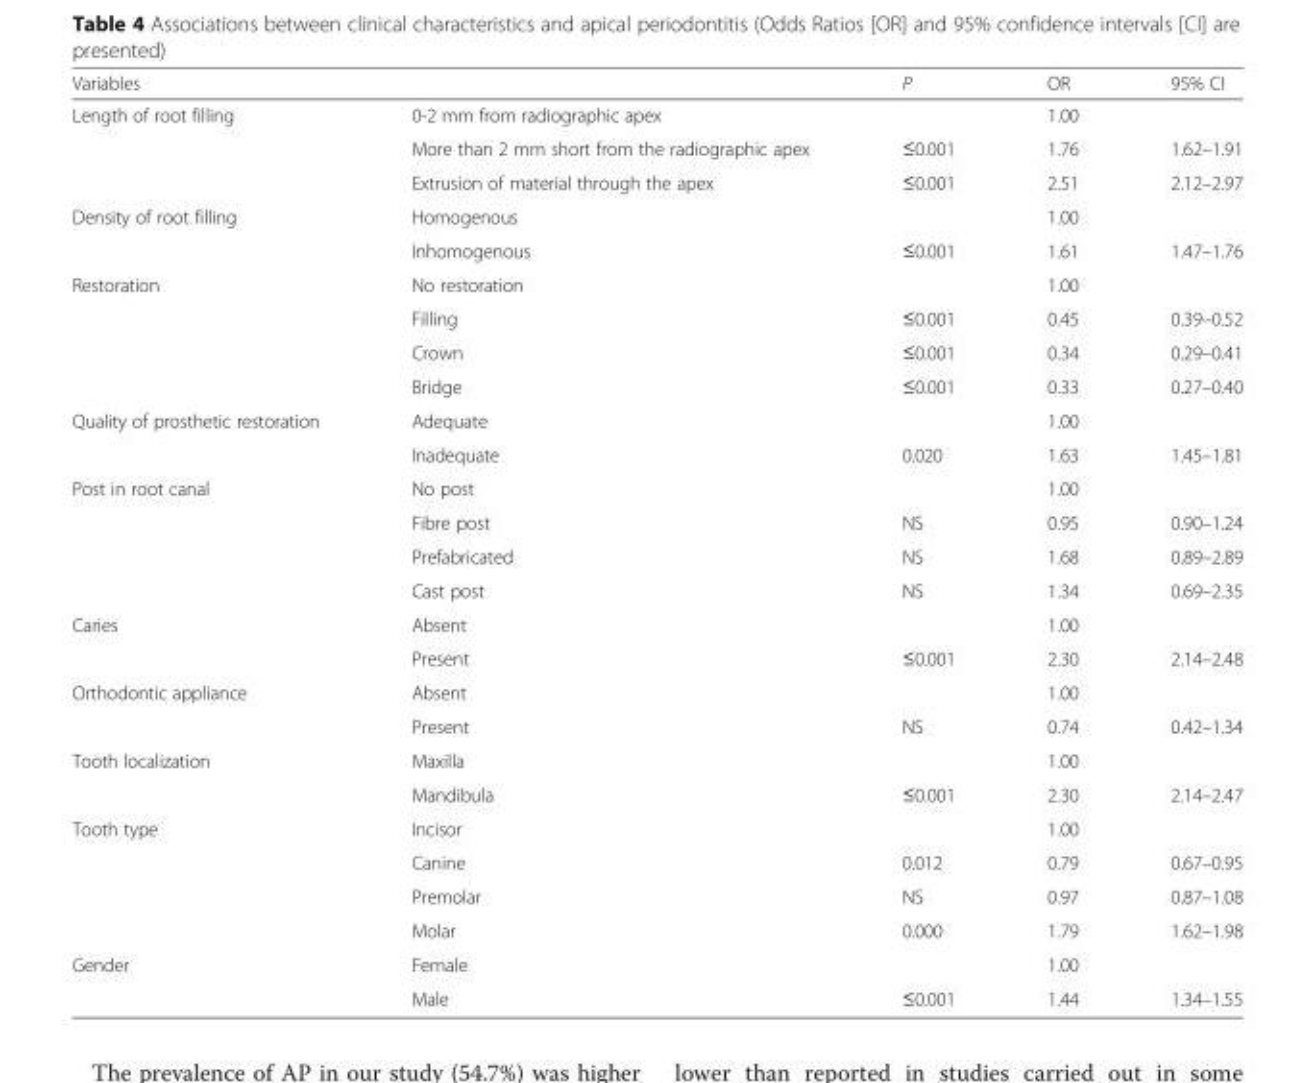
<table><thead><tr><td>Variables</td><td></td><td>P</td><td>OR</td><td>95% CI</td></tr></thead><tbody><tr><td rowspan="3">Length of root filling</td><td>0-2 mm from radiographic apex</td><td></td><td>1.00</td><td></td></tr><tr><td>More than 2 mm short from the radiographic apex</td><td>≤0.001</td><td>1.76</td><td>1.62–1.91</td></tr><tr><td>Extrusion of material through the apex</td><td>≤0.001</td><td>2.51</td><td>2.12–2.97</td></tr><tr><td rowspan="2">Density of root filling</td><td>Homogenous</td><td></td><td>1.00</td><td></td></tr><tr><td>Inhomogenous</td><td>≤0.001</td><td>1.61</td><td>1.47–1.76</td></tr><tr><td rowspan="4">Restoration</td><td>No restoration</td><td></td><td>1.00</td><td></td></tr><tr><td>Filling</td><td>≤0.001</td><td>0.45</td><td>0.39–0.52</td></tr><tr><td>Crown</td><td>≤0.001</td><td>0.34</td><td>0.29–0.41</td></tr><tr><td>Bridge</td><td>≤0.001</td><td>0.33</td><td>0.27–0.40</td></tr><tr><td rowspan="2">Quality of prosthetic restoration</td><td>Adequate</td><td></td><td>1.00</td><td></td></tr><tr><td>Inadequate</td><td>0.020</td><td>1.63</td><td>1.45–1.81</td></tr><tr><td rowspan="4">Post in root canal</td><td>No post</td><td></td><td>1.00</td><td></td></tr><tr><td>Fibre post</td><td>NS</td><td>0.95</td><td>0.90–1.24</td></tr><tr><td>Prefabricated</td><td>NS</td><td>1.68</td><td>0.89–2.89</td></tr><tr><td>Cast post</td><td>NS</td><td>1.34</td><td>0.69–2.35</td></tr><tr><td rowspan="2">Caries</td><td>Absent</td><td></td><td>1.00</td><td></td></tr><tr><td>Present</td><td>≤0.001</td><td>2.30</td><td>2.14–2.48</td></tr><tr><td rowspan="2">Orthodontic appliance</td><td>Absent</td><td></td><td>1.00</td><td></td></tr><tr><td>Present</td><td>NS</td><td>0.74</td><td>0.42–1.34</td></tr><tr><td rowspan="2">Tooth localization</td><td>Maxilla</td><td></td><td>1.00</td><td></td></tr><tr><td>Mandibula</td><td>≤0.001</td><td>2.30</td><td>2.14–2.47</td></tr><tr><td rowspan="4">Tooth type</td><td>Incisor</td><td></td><td>1.00</td><td></td></tr><tr><td>Canine</td><td>0.012</td><td>0.79</td><td>0.67–0.95</td></tr><tr><td>Premolar</td><td>NS</td><td>0.97</td><td>0.87–1.08</td></tr><tr><td>Molar</td><td>0.000</td><td>1.79</td><td>1.62–1.98</td></tr><tr><td rowspan="2">Gender</td><td>Female</td><td></td><td>1.00</td><td></td></tr><tr><td>Male</td><td>≤0.001</td><td>1.44</td><td>1.34–1.55</td></tr></tbody></table>